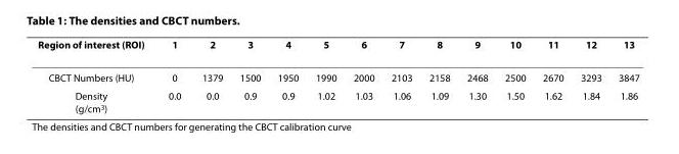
<table><thead><tr><td>Region of interest (ROI)</td><td>1</td><td>2</td><td>3</td><td>4</td><td>5</td><td>6</td><td>7</td><td>8</td><td>9</td><td>10</td><td>11</td><td>12</td><td>13</td></tr></thead><tbody><tr><td>CBCT Numbers (HU)</td><td>0</td><td>1379</td><td>1500</td><td>1950</td><td>1990</td><td>2000</td><td>2103</td><td>2158</td><td>2468</td><td>2500</td><td>2670</td><td>3293</td><td>3847</td></tr><tr><td>Density (g/cm<sup>3</sup>)</td><td>0.0</td><td>0.0</td><td>0.9</td><td>0.9</td><td>1.02</td><td>1.03</td><td>1.06</td><td>1.09</td><td>1.30</td><td>1.50</td><td>1.62</td><td>1.84</td><td>1.86</td></tr></tbody></table>